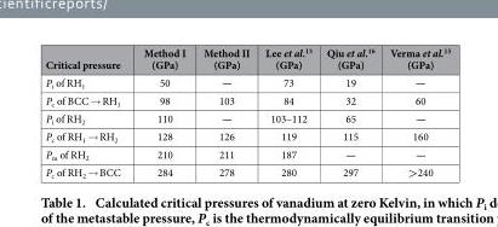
<table><thead><tr><td>Critical pressure</td><td>Method I (GPa)</td><td>Method II (GPa)</td><td>Lee et al.<sup>13</sup> (GPa)</td><td>Qiu et al.<sup>16</sup> (GPa)</td><td>Verma et al.<sup>15</sup> (GPa)</td></tr></thead><tbody><tr><td>P<sub>i</sub> of RH<sub>1</sub></td><td>50</td><td>—</td><td>73</td><td>19</td><td>—</td></tr><tr><td>P<sub>c</sub> of BCC → RH<sub>1</sub></td><td>98</td><td>103</td><td>84</td><td>32</td><td>60</td></tr><tr><td>P<sub>i</sub> of RH<sub>2</sub></td><td>110</td><td>—</td><td>103–112</td><td>65</td><td>—</td></tr><tr><td>P<sub>c</sub> of RH<sub>1</sub> → RH<sub>2</sub></td><td>128</td><td>126</td><td>119</td><td>115</td><td>160</td></tr><tr><td>P<sub>m</sub> of RH<sub>2</sub></td><td>210</td><td>211</td><td>187</td><td>—</td><td>—</td></tr><tr><td>P<sub>c</sub> of RH<sub>2</sub> → BCC</td><td>284</td><td>278</td><td>280</td><td>297</td><td>&gt;240</td></tr></tbody></table>